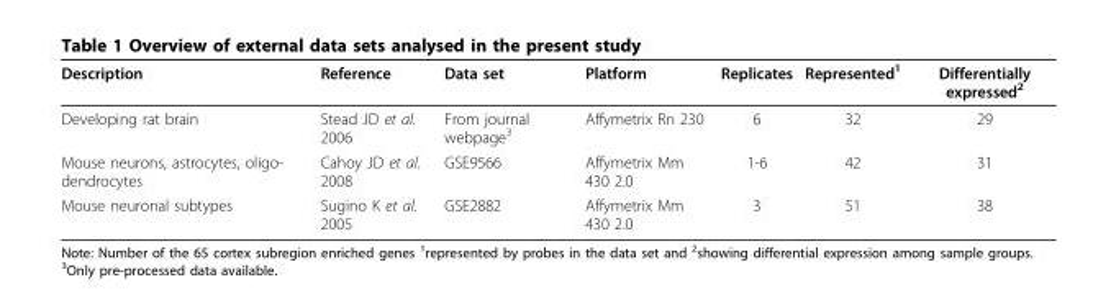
<table><thead><tr><td>Description</td><td>Reference</td><td>Data set</td><td>Platform</td><td>Replicates</td><td>Represented<sup>1</sup></td><td>Differentially expressed<sup>2</sup></td></tr></thead><tbody><tr><td>Developing rat brain</td><td>Stead JD et al. 2006</td><td>From journal webpage<sup>3</sup></td><td>Affymetrix Rn 230</td><td>6</td><td>32</td><td>29</td></tr><tr><td>Mouse neurons, astrocytes, oligo- dendrocytes</td><td>Cahoy JD et al. 2008</td><td>GSE9566</td><td>Affymetrix Mm 430 2.0</td><td>1-6</td><td>42</td><td>31</td></tr><tr><td>Mouse neuronal subtypes</td><td>Sugino K et al. 2005</td><td>GSE2882</td><td>Affymetrix Mm 430 2.0</td><td>3</td><td>51</td><td>38</td></tr></tbody></table>